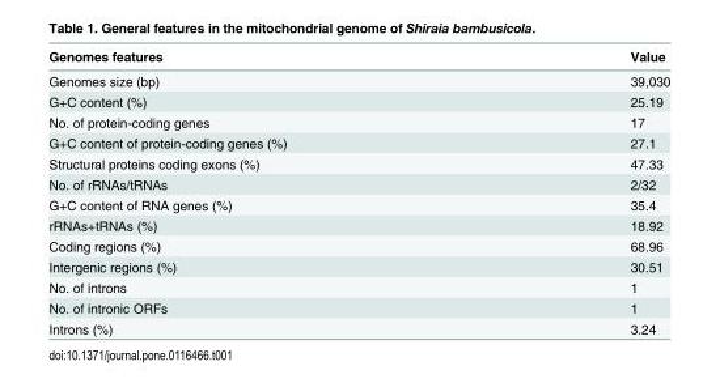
<table><thead><tr><td>Genomes features</td><td>Value</td></tr></thead><tbody><tr><td>Genomes size (bp)</td><td>39,030</td></tr><tr><td>G+C content (%)</td><td>25.19</td></tr><tr><td>No. of protein-coding genes</td><td>17</td></tr><tr><td>G+C content of protein-coding genes (%)</td><td>27.1</td></tr><tr><td>Structural proteins coding exons (%)</td><td>47.33</td></tr><tr><td>No. of rRNAs/tRNAs</td><td>2/32</td></tr><tr><td>G+C content of RNA genes (%)</td><td>35.4</td></tr><tr><td>rRNAs+tRNAs (%)</td><td>18.92</td></tr><tr><td>Coding regions (%)</td><td>68.96</td></tr><tr><td>Intergenic regions (%)</td><td>30.51</td></tr><tr><td>No. of introns</td><td>1</td></tr><tr><td>No. of intronic ORFs</td><td>1</td></tr><tr><td>Introns (%)</td><td>3.24</td></tr></tbody></table>